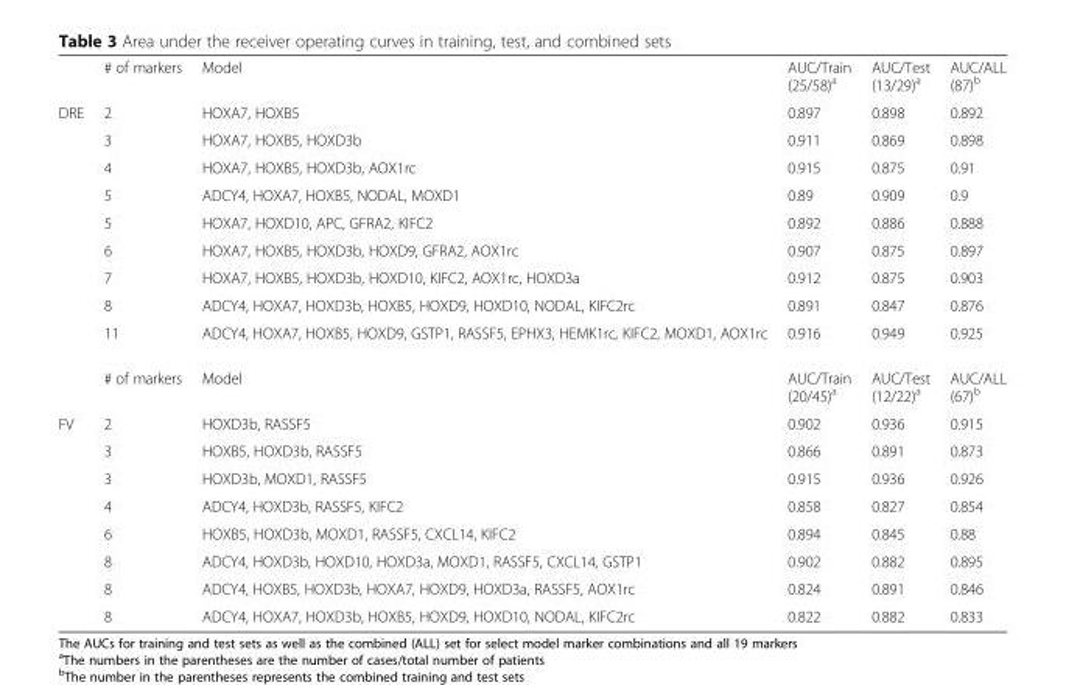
<table><thead><tr><td></td><td># of markers</td><td>Model</td><td>AUC/Train (25/58)<sup>a</sup></td><td>AUC/Test (13/29)<sup>a</sup></td><td>AUC/ALL (87)<sup>b</sup></td></tr></thead><tbody><tr><td rowspan="10">DRE</td><td>2</td><td>HOXA7, HOXB5</td><td>0.897</td><td>0.898</td><td>0.892</td></tr><tr><td>3</td><td>HOXA7, HOXB5, HOXD3b</td><td>0.911</td><td>0.869</td><td>0.898</td></tr><tr><td>4</td><td>HOXA7, HOXB5, HOXD3b, AOX1rc</td><td>0.915</td><td>0.875</td><td>0.91</td></tr><tr><td>5</td><td>ADCY4, HOXA7, HOXB5, NODAL, MOXD1</td><td>0.89</td><td>0.909</td><td>0.9</td></tr><tr><td>5</td><td>HOXA7, HOXD10, APC, GFRA2, KIFC2</td><td>0.892</td><td>0.886</td><td>0.888</td></tr><tr><td>6</td><td>HOXA7, HOXB5, HOXD3b, HOXD9, GFRA2, AOX1rc</td><td>0.907</td><td>0.875</td><td>0.897</td></tr><tr><td>7</td><td>HOXA7, HOXB5, HOXD3b, HOXD10, KIFC2, AOX1rc, HOXD3a</td><td>0.912</td><td>0.875</td><td>0.903</td></tr><tr><td>8</td><td>ADCY4, HOXA7, HOXD3b, HOXB5, HOXD9, HOXD10, NODAL, KIFC2rc</td><td>0.891</td><td>0.847</td><td>0.876</td></tr><tr><td>11</td><td>ADCY4, HOXA7, HOXB5, HOXD9, GSTP1, RASSF5, EPHX3, HEMK1rc, KIFC2, MOXD1, AOX1rc</td><td>0.916</td><td>0.949</td><td>0.925</td></tr><tr><td># of markers</td><td>Model</td><td>AUC/Train (20/45)<sup>a</sup></td><td>AUC/Test (12/22)<sup>a</sup></td><td>AUC/ALL (67)<sup>b</sup></td></tr><tr><td rowspan="8">FV</td><td>2</td><td>HOXD3b, RASSF5</td><td>0.902</td><td>0.936</td><td>0.915</td></tr><tr><td>3</td><td>HOXB5, HOXD3b, RASSF5</td><td>0.866</td><td>0.891</td><td>0.873</td></tr><tr><td>3</td><td>HOXD3b, MOXD1, RASSF5</td><td>0.915</td><td>0.936</td><td>0.926</td></tr><tr><td>4</td><td>ADCY4, HOXD3b, RASSF5, KIFC2</td><td>0.858</td><td>0.827</td><td>0.854</td></tr><tr><td>6</td><td>HOXB5, HOXD3b, MOXD1, RASSF5, CXCL14, KIFC2</td><td>0.894</td><td>0.845</td><td>0.88</td></tr><tr><td>8</td><td>ADCY4, HOXD3b, HOXD10, HOXD3a, MOXD1, RASSF5, CXCL14, GSTP1</td><td>0.902</td><td>0.882</td><td>0.895</td></tr><tr><td>8</td><td>ADCY4, HOXB5, HOXD3b, HOXA7, HOXD9, HOXD3a, RASSF5, AOX1rc</td><td>0.824</td><td>0.891</td><td>0.846</td></tr><tr><td>8</td><td>ADCY4, HOXA7, HOXD3b, HOXB5, HOXD9, HOXD10, NODAL, KIFC2rc</td><td>0.822</td><td>0.882</td><td>0.833</td></tr></tbody></table>